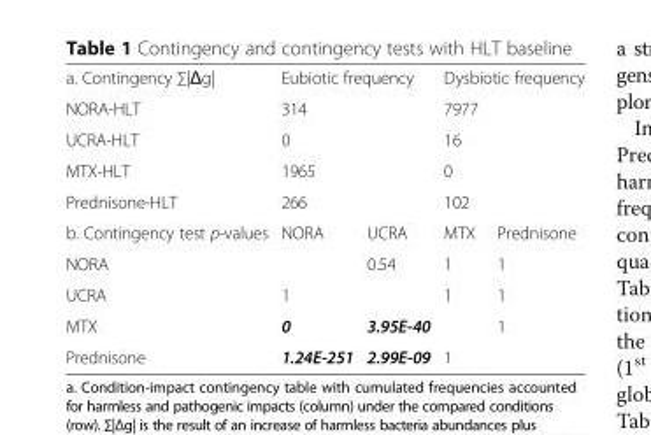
<table><tbody><tr><td>a. Contingency ∑|Δg|</td><td colspan="2">Eubiotic frequency</td><td colspan="2">Dysbiotic frequency</td></tr><tr><td>NORA-HLT</td><td colspan="2">314</td><td colspan="2">7977</td></tr><tr><td>UCRA-HLT</td><td colspan="2">0</td><td colspan="2">16</td></tr><tr><td>MTX-HLT</td><td colspan="2">1965</td><td colspan="2">0</td></tr><tr><td>Prednisone-HLT</td><td colspan="2">266</td><td colspan="2">102</td></tr><tr><td>b. Contingency test p-values</td><td>NORA</td><td>UCRA</td><td>MTX</td><td>Prednisone</td></tr><tr><td>NORA</td><td></td><td>0.54</td><td>1</td><td>1</td></tr><tr><td>UCRA</td><td>1</td><td></td><td>1</td><td>1</td></tr><tr><td>MTX</td><td>0</td><td>3.95E-40</td><td></td><td>1</td></tr><tr><td>Prednisone</td><td>1.24E-251</td><td>2.99E-09</td><td>1</td><td></td></tr></tbody></table>